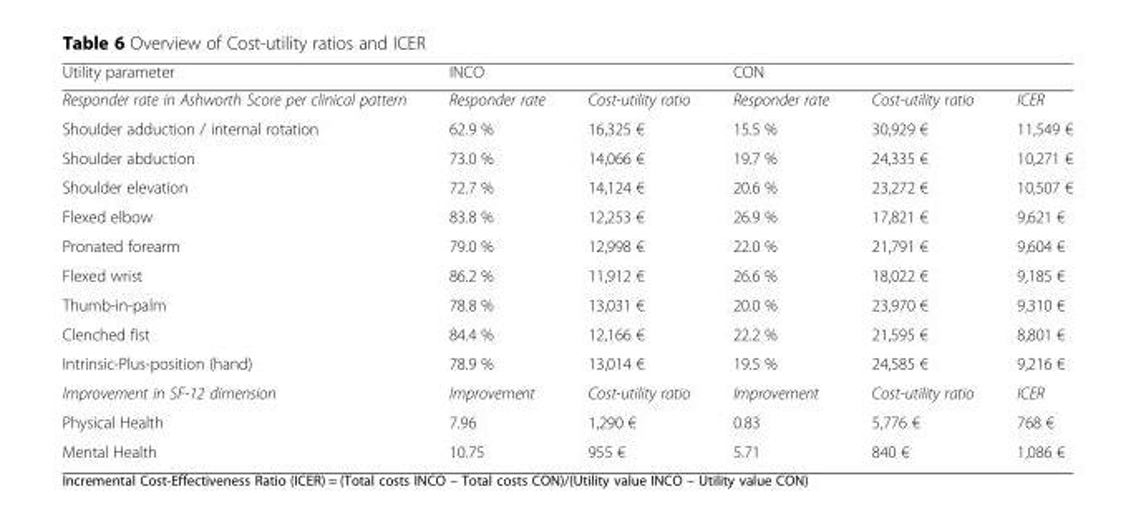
<table><thead><tr><td rowspan="2">Utility parameter Responder rate in Ashworth Score per clinical pattern</td><td colspan="2">INCO</td><td colspan="3">CON</td></tr><tr><td>Responder rate</td><td>Cost-utility ratio</td><td>Responder rate</td><td>Cost-utility ratio</td><td>ICER</td></tr></thead><tbody><tr><td>Shoulder adduction / internal rotation</td><td>62.9 %</td><td>16,325 €</td><td>15.5 %</td><td>30,929 €</td><td>11,549 €</td></tr><tr><td>Shoulder abduction</td><td>73.0 %</td><td>14,066 €</td><td>19.7 %</td><td>24,335 €</td><td>10,271 €</td></tr><tr><td>Shoulder elevation</td><td>72.7 %</td><td>14,124 €</td><td>20.6 %</td><td>23,272 €</td><td>10,507 €</td></tr><tr><td>Flexed elbow</td><td>83.8 %</td><td>12,253 €</td><td>26.9 %</td><td>17,821 €</td><td>9,621 €</td></tr><tr><td>Pronated forearm</td><td>79.0 %</td><td>12,998 €</td><td>22.0 %</td><td>21,791 €</td><td>9,604 €</td></tr><tr><td>Flexed wrist</td><td>86.2 %</td><td>11,912 €</td><td>26.6 %</td><td>18,022 €</td><td>9,185 €</td></tr><tr><td>Thumb-in-palm</td><td>78.8 %</td><td>13,031 €</td><td>20.0 %</td><td>23,970 €</td><td>9,310 €</td></tr><tr><td>Clenched fist</td><td>84.4 %</td><td>12,166 €</td><td>22.2 %</td><td>21,595 €</td><td>8,801 €</td></tr><tr><td>Intrinsic-Plus-position (hand)</td><td>78.9 %</td><td>13,014 €</td><td>19.5 %</td><td>24,585 €</td><td>9,216 €</td></tr><tr><td>Improvement in SF-12 dimension</td><td>Improvement</td><td>Cost-utility ratio</td><td>Improvement</td><td>Cost-utility ratio</td><td>ICER</td></tr><tr><td>Physical Health</td><td>7.96</td><td>1,290 €</td><td>0.83</td><td>5,776 €</td><td>768 €</td></tr><tr><td>Mental Health</td><td>10.75</td><td>955 €</td><td>5.71</td><td>840 €</td><td>1,086 €</td></tr></tbody></table>